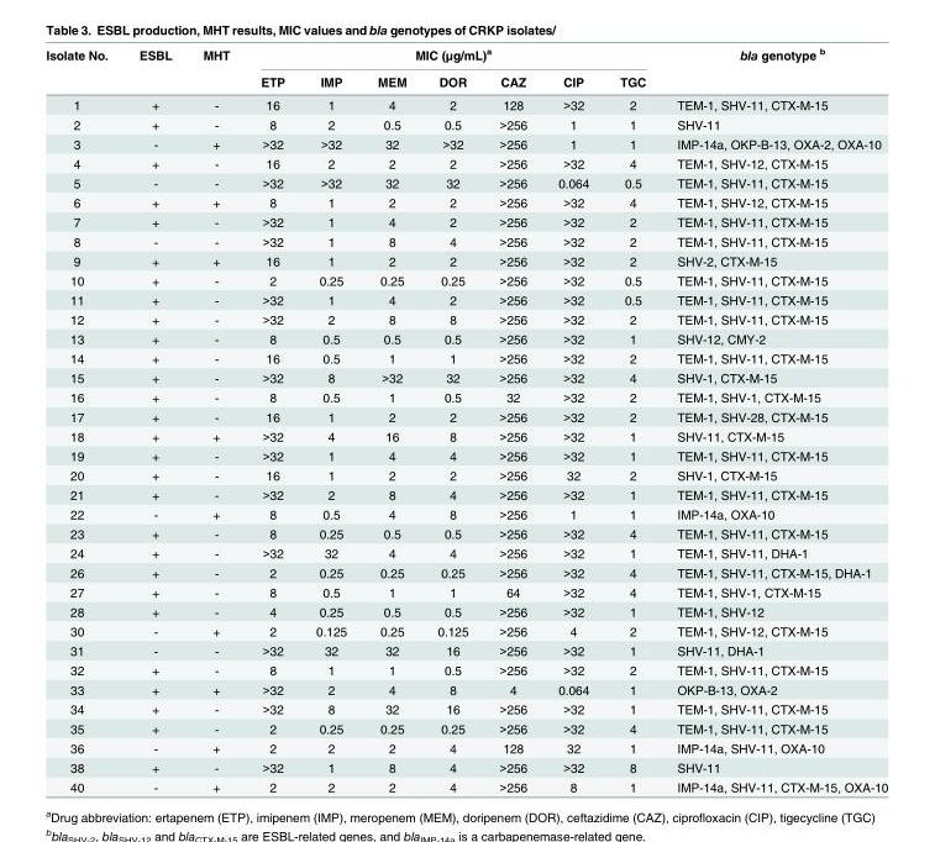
<table><thead><tr><td rowspan="2">Isolate No.</td><td rowspan="2">ESBL</td><td rowspan="2">MHT</td><td colspan="7">MIC (μg/mL)<sup>a</sup></td><td rowspan="2">bla genotype <sup>b</sup></td></tr><tr><td>ETP</td><td>IMP</td><td>MEM</td><td>DOR</td><td>CAZ</td><td>CIP</td><td>TGC</td></tr></thead><tbody><tr><td>1</td><td>+</td><td>-</td><td>16</td><td>1</td><td>4</td><td>2</td><td>128</td><td>&gt;32</td><td>2</td><td>TEM-1, SHV-11, CTX-M-15</td></tr><tr><td>2</td><td>+</td><td>-</td><td>8</td><td>2</td><td>0.5</td><td>0.5</td><td>&gt;256</td><td>1</td><td>1</td><td>SHV-11</td></tr><tr><td>3</td><td>-</td><td>+</td><td>&gt;32</td><td>&gt;32</td><td>32</td><td>&gt;32</td><td>&gt;256</td><td>1</td><td>1</td><td>IMP-14a, OKP-B-13, OXA-2, OXA-10</td></tr><tr><td>4</td><td>+</td><td>-</td><td>16</td><td>2</td><td>2</td><td>2</td><td>&gt;256</td><td>&gt;32</td><td>4</td><td>TEM-1, SHV-12, CTX-M-15</td></tr><tr><td>5</td><td>-</td><td>-</td><td>&gt;32</td><td>&gt;32</td><td>32</td><td>32</td><td>&gt;256</td><td>0.064</td><td>0.5</td><td>TEM-1, SHV-11, CTX-M-15</td></tr><tr><td>6</td><td>+</td><td>+</td><td>8</td><td>1</td><td>2</td><td>2</td><td>&gt;256</td><td>&gt;32</td><td>4</td><td>TEM-1, SHV-12, CTX-M-15</td></tr><tr><td>7</td><td>+</td><td>-</td><td>&gt;32</td><td>1</td><td>4</td><td>2</td><td>&gt;256</td><td>&gt;32</td><td>2</td><td>TEM-1, SHV-11, CTX-M-15</td></tr><tr><td>8</td><td>-</td><td>-</td><td>&gt;32</td><td>1</td><td>8</td><td>4</td><td>&gt;256</td><td>&gt;32</td><td>2</td><td>TEM-1, SHV-11, CTX-M-15</td></tr><tr><td>9</td><td>+</td><td>+</td><td>16</td><td>1</td><td>2</td><td>2</td><td>&gt;256</td><td>&gt;32</td><td>2</td><td>SHV-2, CTX-M-15</td></tr><tr><td>10</td><td>+</td><td>-</td><td>2</td><td>0.25</td><td>0.25</td><td>0.25</td><td>&gt;256</td><td>&gt;32</td><td>0.5</td><td>TEM-1, SHV-11, CTX-M-15</td></tr><tr><td>11</td><td>+</td><td>-</td><td>&gt;32</td><td>1</td><td>4</td><td>2</td><td>&gt;256</td><td>&gt;32</td><td>0.5</td><td>TEM-1, SHV-11, CTX-M-15</td></tr><tr><td>12</td><td>+</td><td>-</td><td>&gt;32</td><td>2</td><td>8</td><td>8</td><td>&gt;256</td><td>&gt;32</td><td>2</td><td>TEM-1, SHV-11, CTX-M-15</td></tr><tr><td>13</td><td>+</td><td>-</td><td>8</td><td>0.5</td><td>0.5</td><td>0.5</td><td>&gt;256</td><td>&gt;32</td><td>1</td><td>SHV-12, CMY-2</td></tr><tr><td>14</td><td>+</td><td>-</td><td>16</td><td>0.5</td><td>1</td><td>1</td><td>&gt;256</td><td>&gt;32</td><td>2</td><td>TEM-1, SHV-11, CTX-M-15</td></tr><tr><td>15</td><td>+</td><td>-</td><td>&gt;32</td><td>8</td><td>&gt;32</td><td>32</td><td>&gt;256</td><td>&gt;32</td><td>4</td><td>SHV-1, CTX-M-15</td></tr><tr><td>16</td><td>+</td><td>-</td><td>8</td><td>0.5</td><td>1</td><td>0.5</td><td>32</td><td>&gt;32</td><td>2</td><td>TEM-1, SHV-1, CTX-M-15</td></tr><tr><td>17</td><td>+</td><td>-</td><td>16</td><td>1</td><td>2</td><td>2</td><td>&gt;256</td><td>&gt;32</td><td>2</td><td>TEM-1, SHV-28, CTX-M-15</td></tr><tr><td>18</td><td>+</td><td>+</td><td>&gt;32</td><td>4</td><td>16</td><td>8</td><td>&gt;256</td><td>&gt;32</td><td>1</td><td>SHV-11, CTX-M-15</td></tr><tr><td>19</td><td>+</td><td>-</td><td>&gt;32</td><td>1</td><td>4</td><td>4</td><td>&gt;256</td><td>&gt;32</td><td>1</td><td>TEM-1, SHV-11, CTX-M-15</td></tr><tr><td>20</td><td>+</td><td>-</td><td>16</td><td>1</td><td>2</td><td>2</td><td>&gt;256</td><td>32</td><td>2</td><td>SHV-1, CTX-M-15</td></tr><tr><td>21</td><td>+</td><td>-</td><td>&gt;32</td><td>2</td><td>8</td><td>4</td><td>&gt;256</td><td>&gt;32</td><td>1</td><td>TEM-1, SHV-11, CTX-M-15</td></tr><tr><td>22</td><td>-</td><td>+</td><td>8</td><td>0.5</td><td>4</td><td>8</td><td>&gt;256</td><td>1</td><td>1</td><td>IMP-14a, OXA-10</td></tr><tr><td>23</td><td>+</td><td>-</td><td>8</td><td>0.25</td><td>0.5</td><td>0.5</td><td>&gt;256</td><td>&gt;32</td><td>4</td><td>TEM-1, SHV-11, CTX-M-15</td></tr><tr><td>24</td><td>+</td><td>-</td><td>&gt;32</td><td>32</td><td>4</td><td>4</td><td>&gt;256</td><td>&gt;32</td><td>1</td><td>TEM-1, SHV-11, DHA-1</td></tr><tr><td>26</td><td>+</td><td>-</td><td>2</td><td>0.25</td><td>0.25</td><td>0.25</td><td>&gt;256</td><td>&gt;32</td><td>4</td><td>TEM-1, SHV-11, CTX-M-15, DHA-1</td></tr><tr><td>27</td><td>+</td><td>-</td><td>8</td><td>0.5</td><td>1</td><td>1</td><td>64</td><td>&gt;32</td><td>4</td><td>TEM-1, SHV-1, CTX-M-15</td></tr><tr><td>28</td><td>+</td><td>-</td><td>4</td><td>0.25</td><td>0.5</td><td>0.5</td><td>&gt;256</td><td>&gt;32</td><td>1</td><td>TEM-1, SHV-12</td></tr><tr><td>30</td><td>-</td><td>+</td><td>2</td><td>0.125</td><td>0.25</td><td>0.125</td><td>&gt;256</td><td>4</td><td>2</td><td>TEM-1, SHV-12, CTX-M-15</td></tr><tr><td>31</td><td>-</td><td>-</td><td>&gt;32</td><td>32</td><td>32</td><td>16</td><td>&gt;256</td><td>&gt;32</td><td>1</td><td>SHV-11, DHA-1</td></tr><tr><td>32</td><td>+</td><td>-</td><td>8</td><td>1</td><td>1</td><td>0.5</td><td>&gt;256</td><td>&gt;32</td><td>2</td><td>TEM-1, SHV-11, CTX-M-15</td></tr><tr><td>33</td><td>+</td><td>+</td><td>&gt;32</td><td>2</td><td>4</td><td>8</td><td>4</td><td>0.064</td><td>1</td><td>OKP-B-13, OXA-2</td></tr><tr><td>34</td><td>+</td><td>-</td><td>&gt;32</td><td>8</td><td>32</td><td>16</td><td>&gt;256</td><td>&gt;32</td><td>1</td><td>TEM-1, SHV-11, CTX-M-15</td></tr><tr><td>35</td><td>+</td><td>-</td><td>2</td><td>0.25</td><td>0.25</td><td>0.25</td><td>&gt;256</td><td>&gt;32</td><td>4</td><td>TEM-1, SHV-11, CTX-M-15</td></tr><tr><td>36</td><td>-</td><td>+</td><td>2</td><td>2</td><td>2</td><td>4</td><td>128</td><td>32</td><td>1</td><td>IMP-14a, SHV-11, OXA-10</td></tr><tr><td>38</td><td>+</td><td>-</td><td>&gt;32</td><td>1</td><td>8</td><td>4</td><td>&gt;256</td><td>&gt;32</td><td>8</td><td>SHV-11</td></tr><tr><td>40</td><td>-</td><td>+</td><td>2</td><td>2</td><td>2</td><td>4</td><td>&gt;256</td><td>8</td><td>1</td><td>IMP-14a, SHV-11, CTX-M-15, OXA-10</td></tr></tbody></table>